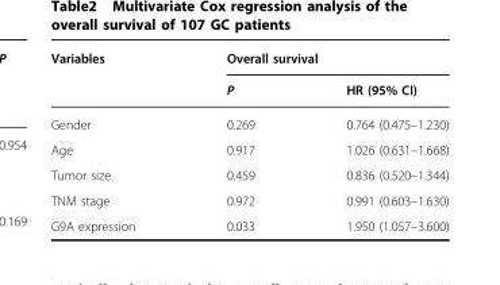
<table><thead><tr><td rowspan="2">Variables</td><td colspan="2">Overall survival</td></tr><tr><td>P</td><td>HR (95% CI)</td></tr></thead><tbody><tr><td>Gender</td><td>0.269</td><td>0.764 (0.475–1.230)</td></tr><tr><td>Age</td><td>0.917</td><td>1.026 (0.631–1.668)</td></tr><tr><td>Tumor size</td><td>0.459</td><td>0.836 (0.520–1.344)</td></tr><tr><td>TNM stage</td><td>0.972</td><td>0.991 (0.603–1.630)</td></tr><tr><td>G9A expression</td><td>0.033</td><td>1.950 (1.057–3.600)</td></tr></tbody></table>